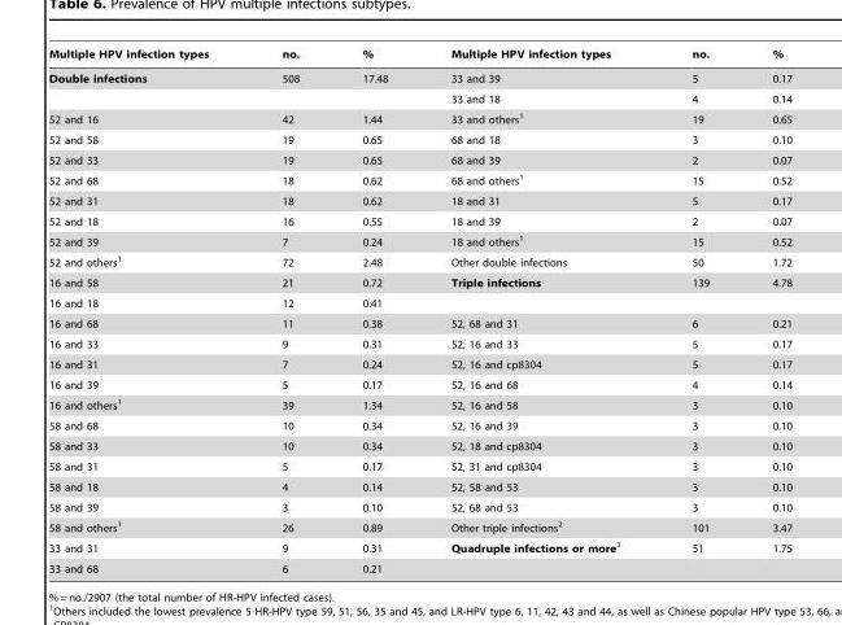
<table><thead><tr><td>Multiple HPV infection types</td><td>no.</td><td>%</td><td>Multiple HPV infection types</td><td>no.</td><td>%</td></tr></thead><tbody><tr><td rowspan="2">Double infections</td><td>508</td><td>17.48</td><td>33 and 39</td><td>5</td><td>0.17</td></tr><tr><td></td><td></td><td>33 and 18</td><td>4</td><td>0.14</td></tr><tr><td>52 and 16</td><td>42</td><td>1.44</td><td>33 and others<sup>1</sup></td><td>19</td><td>0.65</td></tr><tr><td>52 and 58</td><td>19</td><td>0.65</td><td>68 and 18</td><td>3</td><td>0.10</td></tr><tr><td>52 and 33</td><td>19</td><td>0.65</td><td>68 and 39</td><td>2</td><td>0.07</td></tr><tr><td>52 and 68</td><td>18</td><td>0.62</td><td>68 and others<sup>1</sup></td><td>15</td><td>0.52</td></tr><tr><td>52 and 31</td><td>18</td><td>0.62</td><td>18 and 31</td><td>5</td><td>0.17</td></tr><tr><td>52 and 18</td><td>16</td><td>0.55</td><td>18 and 39</td><td>2</td><td>0.07</td></tr><tr><td>52 and 39</td><td>7</td><td>0.24</td><td>18 and others<sup>1</sup></td><td>15</td><td>0.52</td></tr><tr><td>52 and others<sup>1</sup></td><td>72</td><td>2.48</td><td>Other double infections</td><td>50</td><td>1.72</td></tr><tr><td>16 and 58</td><td>21</td><td>0.72</td><td>Triple infections</td><td>139</td><td>4.78</td></tr><tr><td>16 and 18</td><td>12</td><td>0.41</td><td></td><td></td><td></td></tr><tr><td>16 and 68</td><td>11</td><td>0.38</td><td>52, 68 and 31</td><td>6</td><td>0.21</td></tr><tr><td>16 and 33</td><td>9</td><td>0.31</td><td>52, 16 and 33</td><td>5</td><td>0.17</td></tr><tr><td>16 and 31</td><td>7</td><td>0.24</td><td>52, 16 and cp8304</td><td>5</td><td>0.17</td></tr><tr><td>16 and 39</td><td>5</td><td>0.17</td><td>52, 16 and 68</td><td>4</td><td>0.14</td></tr><tr><td>16 and others<sup>1</sup></td><td>39</td><td>1.34</td><td>52, 16 and 58</td><td>3</td><td>0.10</td></tr><tr><td>58 and 68</td><td>10</td><td>0.34</td><td>52, 16 and 39</td><td>3</td><td>0.10</td></tr><tr><td>58 and 33</td><td>10</td><td>0.34</td><td>52, 18 and cp8304</td><td>3</td><td>0.10</td></tr><tr><td>58 and 31</td><td>5</td><td>0.17</td><td>52, 31 and cp8304</td><td>3</td><td>0.10</td></tr><tr><td>58 and 18</td><td>4</td><td>0.14</td><td>52, 58 and 53</td><td>3</td><td>0.10</td></tr><tr><td>58 and 39</td><td>3</td><td>0.10</td><td>52, 68 and 53</td><td>3</td><td>0.10</td></tr><tr><td>58 and others<sup>1</sup></td><td>26</td><td>0.89</td><td>Other triple infections<sup>2</sup></td><td>101</td><td>3.47</td></tr><tr><td>33 and 31</td><td>9</td><td>0.31</td><td>Quadruple infections or more3</td><td>51</td><td>1.75</td></tr><tr><td>33 and 68</td><td>6</td><td>0.21</td><td></td><td></td><td></td></tr></tbody></table>